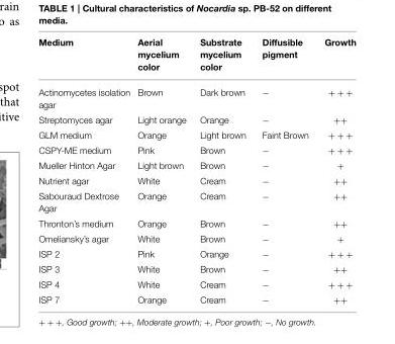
<table><thead><tr><td>Medium</td><td>Aerial mycelium color</td><td>Substrate mycelium color</td><td>Diffusible pigment</td><td>Growth</td></tr></thead><tbody><tr><td>Actinomycetes isolation agar</td><td>Brown</td><td>Dark brown</td><td>−</td><td>+ + +</td></tr><tr><td>Streptomyces agar</td><td>Light orange</td><td>Orange</td><td>−</td><td>++</td></tr><tr><td>GLM medium</td><td>Orange</td><td>Light brown</td><td>Faint Brown</td><td>+ + +</td></tr><tr><td>CSPY-ME medium</td><td>Pink</td><td>Brown</td><td>−</td><td>+ + +</td></tr><tr><td>Mueller Hinton Agar</td><td>Light brown</td><td>Brown</td><td>−</td><td>+</td></tr><tr><td>Nutrient agar</td><td>White</td><td>Cream</td><td>−</td><td>++</td></tr><tr><td>Sabouraud Dextrose Agar</td><td>Orange</td><td>Cream</td><td>−</td><td>++</td></tr><tr><td>Thronton’s medium</td><td>Orange</td><td>Brown</td><td>−</td><td>++</td></tr><tr><td>Omeliansky’s agar</td><td>White</td><td>Brown</td><td>−</td><td>+</td></tr><tr><td>ISP 2</td><td>Pink</td><td>Orange</td><td>−</td><td>+ + +</td></tr><tr><td>ISP 3</td><td>White</td><td>Brown</td><td>−</td><td>++</td></tr><tr><td>ISP 4</td><td>White</td><td>Cream</td><td>−</td><td>+ + +</td></tr><tr><td>ISP 7</td><td>Orange</td><td>Cream</td><td>−</td><td>++</td></tr></tbody></table>